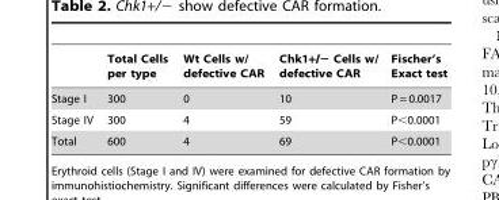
<table><thead><tr><td></td><td>Total Cells per type</td><td>Wt Cells w/ defective CAR</td><td>Chk1+/− Cells w/ defective CAR</td><td>Fischer’s Exact test</td></tr></thead><tbody><tr><td>Stage I</td><td>300</td><td>0</td><td>10</td><td>P = 0.0017</td></tr><tr><td>Stage IV</td><td>300</td><td>4</td><td>59</td><td>P&lt;0.0001</td></tr><tr><td>Total</td><td>600</td><td>4</td><td>69</td><td>P&lt;0.0001</td></tr></tbody></table>